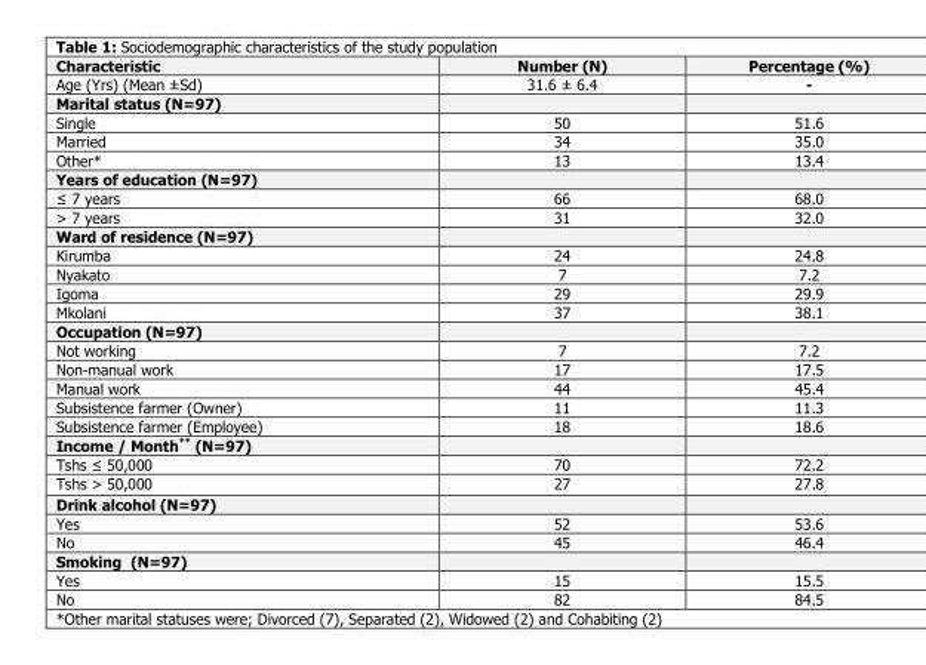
<table><thead><tr><td>Characteristic</td><td>Number (N)</td><td>Percentage (%)</td></tr></thead><tbody><tr><td>Age (Yrs) (Mean ±Sd)</td><td>31.6 ± 6.4</td><td>-</td></tr><tr><td colspan="3">Marital status (N=97)</td></tr><tr><td>Single</td><td>50</td><td>51.6</td></tr><tr><td>Married</td><td>34</td><td>35.0</td></tr><tr><td>Other*</td><td>13</td><td>13.4</td></tr><tr><td colspan="3">Years of education (N=97)</td></tr><tr><td>≤ 7 years</td><td>66</td><td>68.0</td></tr><tr><td>&gt; 7 years</td><td>31</td><td>32.0</td></tr><tr><td colspan="3">Ward of residence (N=97)</td></tr><tr><td>Kirumba</td><td>24</td><td>24.8</td></tr><tr><td>Nyakato</td><td>7</td><td>7.2</td></tr><tr><td>Igoma</td><td>29</td><td>29.9</td></tr><tr><td>Mkolani</td><td>37</td><td>38.1</td></tr><tr><td colspan="3">Occupation (N=97)</td></tr><tr><td>Not working</td><td>7</td><td>7.2</td></tr><tr><td>Non-manual work</td><td>17</td><td>17.5</td></tr><tr><td>Manual work</td><td>44</td><td>45.4</td></tr><tr><td>Subsistence farmer (Owner)</td><td>11</td><td>11.3</td></tr><tr><td>Subsistence farmer (Employee)</td><td>18</td><td>18.6</td></tr><tr><td colspan="3">Income / Month** (N=97)</td></tr><tr><td>Tshs ≤ 50,000</td><td>70</td><td>72.2</td></tr><tr><td>Tshs &gt; 50,000</td><td>27</td><td>27.8</td></tr><tr><td colspan="3">Drink alcohol (N=97)</td></tr><tr><td>Yes</td><td>52</td><td>53.6</td></tr><tr><td>No</td><td>45</td><td>46.4</td></tr><tr><td colspan="3">Smoking (N=97)</td></tr><tr><td>Yes</td><td>15</td><td>15.5</td></tr><tr><td>No</td><td>82</td><td>84.5</td></tr></tbody></table>